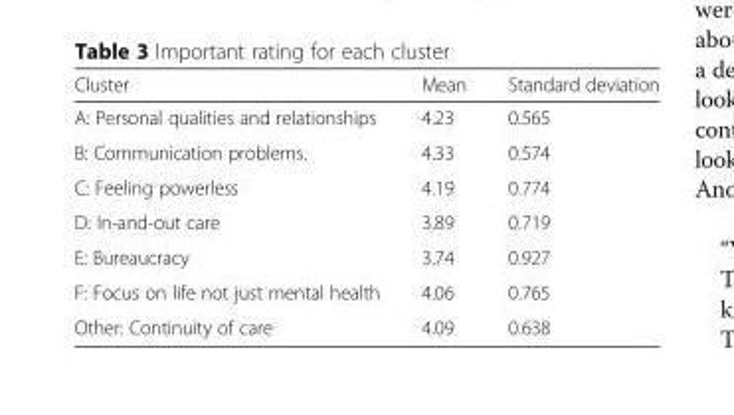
<table><thead><tr><td>Cluster</td><td>Mean</td><td>Standard deviation</td></tr></thead><tbody><tr><td>A: Personal qualities and relationships</td><td>4.23</td><td>0.565</td></tr><tr><td>B: Communication problems.</td><td>4.33</td><td>0.574</td></tr><tr><td>C: Feeling powerless</td><td>4.19</td><td>0.774</td></tr><tr><td>D: In-and-out care</td><td>3.89</td><td>0.719</td></tr><tr><td>E: Bureaucracy</td><td>3.74</td><td>0.927</td></tr><tr><td>F: Focus on life not just mental health</td><td>4.06</td><td>0.765</td></tr><tr><td>Other: Continuity of care</td><td>4.09</td><td>0.638</td></tr></tbody></table>